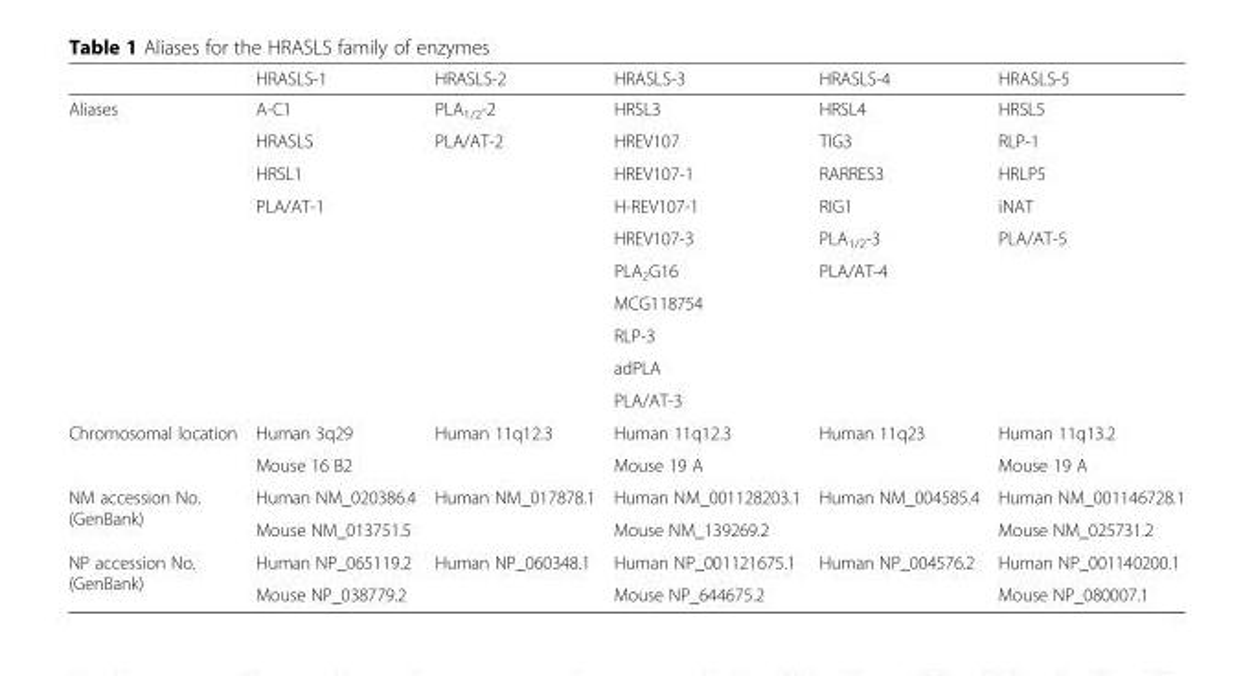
<table><thead><tr><td></td><td>HRASLS-1</td><td>HRASLS-2</td><td>HRASLS-3</td><td>HRASLS-4</td><td>HRASLS-5</td></tr></thead><tbody><tr><td rowspan="10">Aliases</td><td>A-C1</td><td>PLA<sub>1/2</sub>-2</td><td>HRSL3</td><td>HRSL4</td><td>HRSL5</td></tr><tr><td>HRASLS</td><td>PLA/AT-2</td><td>HREV107</td><td>TIG3</td><td>RLP-1</td></tr><tr><td>HRSL1</td><td></td><td>HREV107-1</td><td>RARRES3</td><td>HRLP5</td></tr><tr><td>PLA/AT-1</td><td></td><td>H-REV107-1</td><td>RIG1</td><td>iNAT</td></tr><tr><td></td><td></td><td>HREV107-3</td><td>PLA<sub>1/2</sub>-3</td><td>PLA/AT-5</td></tr><tr><td></td><td></td><td>PLA<sub>2</sub>G16</td><td>PLA/AT-4</td><td></td></tr><tr><td></td><td></td><td>MCG118754</td><td></td><td></td></tr><tr><td></td><td></td><td>RLP-3</td><td></td><td></td></tr><tr><td></td><td></td><td>adPLA</td><td></td><td></td></tr><tr><td></td><td></td><td>PLA/AT-3</td><td></td><td></td></tr><tr><td rowspan="2">Chromosomal location</td><td>Human 3q29</td><td>Human 11q12.3</td><td>Human 11q12.3</td><td>Human 11q23</td><td>Human 11q13.2</td></tr><tr><td>Mouse 16 B2</td><td></td><td>Mouse 19 A</td><td></td><td>Mouse 19 A</td></tr><tr><td rowspan="2">NM accession No. (GenBank)</td><td>Human NM_020386.4</td><td>Human NM_017878.1</td><td>Human NM_001128203.1</td><td>Human NM_004585.4</td><td>Human NM_001146728.1</td></tr><tr><td>Mouse NM_013751.5</td><td></td><td>Mouse NM_139269.2</td><td></td><td>Mouse NM_025731.2</td></tr><tr><td rowspan="2">NP accession No. (GenBank)</td><td>Human NP_065119.2</td><td>Human NP_060348.1</td><td>Human NP_001121675.1</td><td>Human NP_004576.2</td><td>Human NP_001140200.1</td></tr><tr><td>Mouse NP_038779.2</td><td></td><td>Mouse NP_644675.2</td><td></td><td>Mouse NP_080007.1</td></tr></tbody></table>